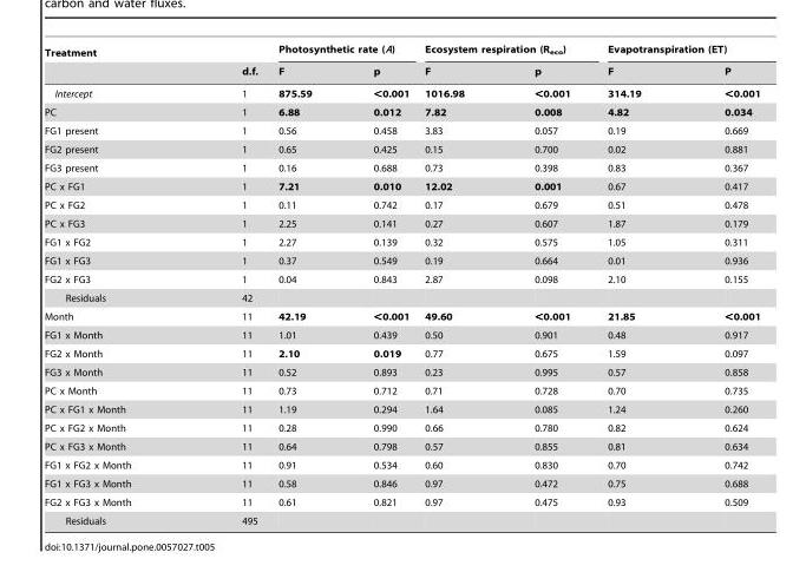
<table><thead><tr><td rowspan="2">Treatment</td><td rowspan="2">d.f.</td><td colspan="2">Photosynthetic rate (A)</td><td colspan="2">Ecosystem respiration (R<sub>eco</sub>)</td><td colspan="2">Evapotranspiration (ET)</td></tr><tr><td>F</td><td>p</td><td>F</td><td>p</td><td>F</td><td>P</td></tr></thead><tbody><tr><td>Intercept</td><td>1</td><td>875.59</td><td>&lt;0.001</td><td>1016.98</td><td>&lt;0.001</td><td>314.19</td><td>&lt;0.001</td></tr><tr><td>PC</td><td>1</td><td>6.88</td><td>0.012</td><td>7.82</td><td>0.008</td><td>4.82</td><td>0.034</td></tr><tr><td>FG1 present</td><td>1</td><td>0.56</td><td>0.458</td><td>3.83</td><td>0.057</td><td>0.19</td><td>0.669</td></tr><tr><td>FG2 present</td><td>1</td><td>0.65</td><td>0.425</td><td>0.15</td><td>0.700</td><td>0.02</td><td>0.881</td></tr><tr><td>FG3 present</td><td>1</td><td>0.16</td><td>0.688</td><td>0.73</td><td>0.398</td><td>0.83</td><td>0.367</td></tr><tr><td>PC x FG1</td><td>1</td><td>7.21</td><td>0.010</td><td>12.02</td><td>0.001</td><td>0.67</td><td>0.417</td></tr><tr><td>PC x FG2</td><td>1</td><td>0.11</td><td>0.742</td><td>0.17</td><td>0.679</td><td>0.51</td><td>0.478</td></tr><tr><td>PC x FG3</td><td>1</td><td>2.25</td><td>0.141</td><td>0.27</td><td>0.607</td><td>1.87</td><td>0.179</td></tr><tr><td>FG1 x FG2</td><td>1</td><td>2.27</td><td>0.139</td><td>0.32</td><td>0.575</td><td>1.05</td><td>0.311</td></tr><tr><td>FG1 x FG3</td><td>1</td><td>0.37</td><td>0.549</td><td>0.19</td><td>0.664</td><td>0.01</td><td>0.936</td></tr><tr><td>FG2 x FG3</td><td>1</td><td>0.04</td><td>0.843</td><td>2.87</td><td>0.098</td><td>2.10</td><td>0.155</td></tr><tr><td>Residuals</td><td>42</td><td></td><td></td><td></td><td></td><td></td><td></td></tr><tr><td>Month</td><td>11</td><td>42.19</td><td>&lt;0.001</td><td>49.60</td><td>&lt;0.001</td><td>21.85</td><td>&lt;0.001</td></tr><tr><td>FG1 x Month</td><td>11</td><td>1.01</td><td>0.439</td><td>0.50</td><td>0.901</td><td>0.48</td><td>0.917</td></tr><tr><td>FG2 x Month</td><td>11</td><td>2.10</td><td>0.019</td><td>0.77</td><td>0.675</td><td>1.59</td><td>0.097</td></tr><tr><td>FG3 x Month</td><td>11</td><td>0.52</td><td>0.893</td><td>0.23</td><td>0.995</td><td>0.57</td><td>0.858</td></tr><tr><td>PC x Month</td><td>11</td><td>0.73</td><td>0.712</td><td>0.71</td><td>0.728</td><td>0.70</td><td>0.735</td></tr><tr><td>PC x FG1 x Month</td><td>11</td><td>1.19</td><td>0.294</td><td>1.64</td><td>0.085</td><td>1.24</td><td>0.260</td></tr><tr><td>PC x FG2 x Month</td><td>11</td><td>0.28</td><td>0.990</td><td>0.66</td><td>0.780</td><td>0.82</td><td>0.624</td></tr><tr><td>PC x FG3 x Month</td><td>11</td><td>0.64</td><td>0.798</td><td>0.57</td><td>0.855</td><td>0.81</td><td>0.634</td></tr><tr><td>FG1 x FG2 x Month</td><td>11</td><td>0.91</td><td>0.534</td><td>0.60</td><td>0.830</td><td>0.70</td><td>0.742</td></tr><tr><td>FG1 x FG3 x Month</td><td>11</td><td>0.58</td><td>0.846</td><td>0.97</td><td>0.472</td><td>0.75</td><td>0.688</td></tr><tr><td>FG2 x FG3 x Month</td><td>11</td><td>0.61</td><td>0.821</td><td>0.97</td><td>0.475</td><td>0.93</td><td>0.509</td></tr><tr><td>Residuals</td><td>495</td><td></td><td></td><td></td><td></td><td></td><td></td></tr></tbody></table>